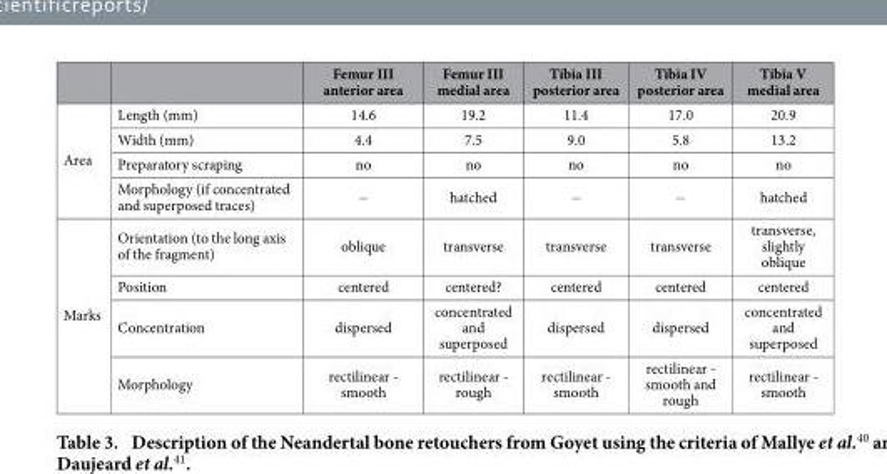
<table><thead><tr><td></td><td></td><td>Femur III anterior area</td><td>Femur III medial area</td><td>Tibia III posterior area</td><td>Tibia IV posterior area</td><td>Tibia V medial area</td></tr></thead><tbody><tr><td rowspan="4">Area</td><td>Length (mm)</td><td>14.6</td><td>19.2</td><td>11.4</td><td>17.0</td><td>20.9</td></tr><tr><td>Width (mm)</td><td>4.4</td><td>7.5</td><td>9.0</td><td>5.8</td><td>13.2</td></tr><tr><td>Preparatory scraping</td><td>no</td><td>no</td><td>no</td><td>no</td><td>no</td></tr><tr><td>Morphology (if concentrated and superposed traces)</td><td>−</td><td>hatched</td><td>−</td><td>−</td><td>hatched</td></tr><tr><td rowspan="4">Marks</td><td>Orientation (to the long axis of the fragment)</td><td>oblique</td><td>transverse</td><td>transverse</td><td>transverse</td><td>transverse, slightly oblique</td></tr><tr><td>Position</td><td>centered</td><td>centered?</td><td>centered</td><td>centered</td><td>centered</td></tr><tr><td>Concentration</td><td>dispersed</td><td>concentrated and superposed</td><td>dispersed</td><td>dispersed</td><td>concentrated and superposed</td></tr><tr><td>Morphology</td><td>rectilinear - smooth</td><td>rectilinear - rough</td><td>rectilinear - smooth</td><td>rectilinear - smooth and rough</td><td>rectilinear - smooth</td></tr></tbody></table>